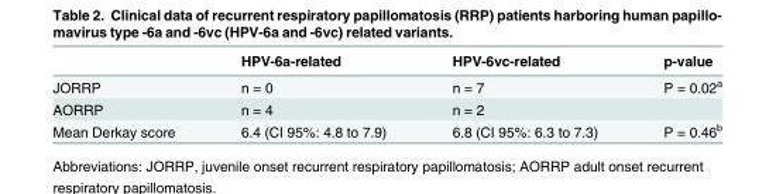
<table><thead><tr><td></td><td>HPV-6a-related</td><td>HPV-6vc-related</td><td>p-value</td></tr></thead><tbody><tr><td>JORRP</td><td>n = 0</td><td>n = 7</td><td>P = 0.02<sup>a</sup></td></tr><tr><td>AORRP</td><td>n = 4</td><td>n = 2</td><td></td></tr><tr><td>Mean Derkay score</td><td>6.4 (CI 95%: 4.8 to 7.9)</td><td>6.8 (CI 95%: 6.3 to 7.3)</td><td>P = 0.46<sup>b</sup></td></tr></tbody></table>